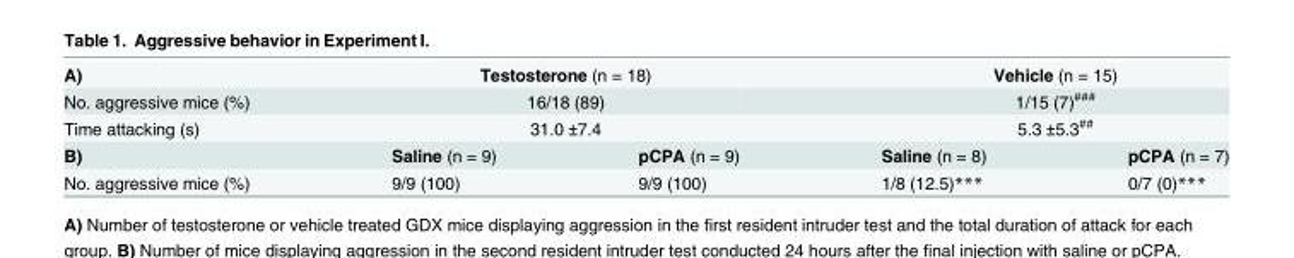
<table><tbody><tr><td>A)</td><td colspan="2">Testosterone (n = 18)</td><td colspan="2">Vehicle (n = 15)</td></tr><tr><td>No. aggressive mice (%)</td><td colspan="2">16/18 (89)</td><td colspan="2">1/15 (7)<sup>###</sup></td></tr><tr><td>Time attacking (s)</td><td colspan="2">31.0 ±7.4</td><td colspan="2">5.3 ±5.3<sup>##</sup></td></tr><tr><td>B)</td><td>Saline (n = 9)</td><td>pCPA (n = 9)</td><td>Saline (n = 8)</td><td>pCPA (n = 7)</td></tr><tr><td>No. aggressive mice (%)</td><td>9/9 (100)</td><td>9/9 (100)</td><td>1/8 (12.5)***</td><td>0/7 (0)***</td></tr></tbody></table>